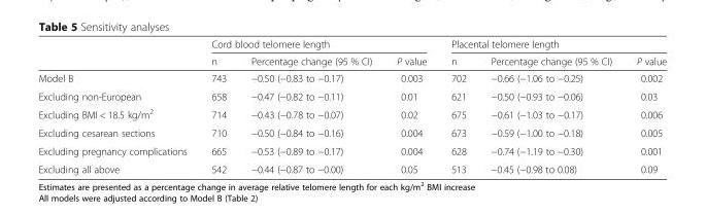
<table><thead><tr><td rowspan="2"></td><td colspan="3">Cord blood telomere length</td><td colspan="3">Placental telomere length</td></tr><tr><td>n</td><td>Percentage change (95 % CI)</td><td>P value</td><td>n</td><td>Percentage change (95 % CI)</td><td>P value</td></tr></thead><tbody><tr><td>Model B</td><td>743</td><td>−0.50 (−0.83 to −0.17)</td><td>0.003</td><td>702</td><td>−0.66 (−1.06 to −0.25)</td><td>0.002</td></tr><tr><td>Excluding non-European</td><td>658</td><td>−0.47 (−0.82 to −0.11)</td><td>0.01</td><td>621</td><td>−0.50 (−0.93 to −0.06)</td><td>0.03</td></tr><tr><td>Excluding BMI &lt; 18.5 kg/m<sup>2</sup></td><td>714</td><td>−0.43 (−0.78 to −0.07)</td><td>0.02</td><td>675</td><td>−0.61 (−1.03 to −0.17)</td><td>0.006</td></tr><tr><td>Excluding cesarean sections</td><td>710</td><td>−0.50 (−0.84 to −0.16)</td><td>0.004</td><td>673</td><td>−0.59 (−1.00 to −0.18)</td><td>0.005</td></tr><tr><td>Excluding pregnancy complications</td><td>665</td><td>−0.53 (−0.89 to −0.17)</td><td>0.004</td><td>628</td><td>−0.74 (−1.19 to −0.30)</td><td>0.001</td></tr><tr><td>Excluding all above</td><td>542</td><td>−0.44 (−0.87 to −0.00)</td><td>0.05</td><td>513</td><td>−0.45 (−0.98 to 0.08)</td><td>0.09</td></tr></tbody></table>